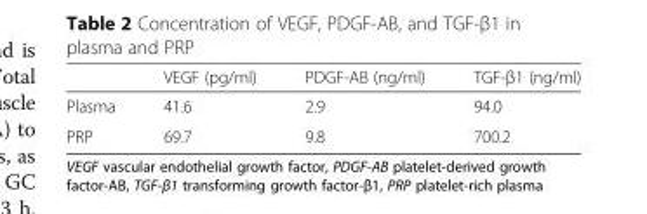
<table><thead><tr><td></td><td>VEGF (pg/ml)</td><td>PDGF-AB (ng/ml)</td><td>TGF-β1 (ng/ml)</td></tr></thead><tbody><tr><td>Plasma</td><td>41.6</td><td>2.9</td><td>94.0</td></tr><tr><td>PRP</td><td>69.7</td><td>9.8</td><td>700.2</td></tr></tbody></table>